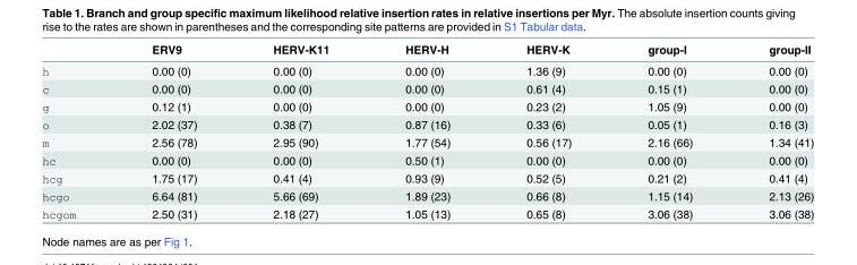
<table><thead><tr><td></td><td>ERV9</td><td>HERV-K11</td><td>HERV-H</td><td>HERV-K</td><td>group-I</td><td>group-II</td></tr></thead><tbody><tr><td>h</td><td>0.00 (0)</td><td>0.00 (0)</td><td>0.00 (0)</td><td>1.36 (9)</td><td>0.00 (0)</td><td>0.00 (0)</td></tr><tr><td>c</td><td>0.00 (0)</td><td>0.00 (0)</td><td>0.00 (0)</td><td>0.61 (4)</td><td>0.15 (1)</td><td>0.00 (0)</td></tr><tr><td>g</td><td>0.12 (1)</td><td>0.00 (0)</td><td>0.00 (0)</td><td>0.23 (2)</td><td>1.05 (9)</td><td>0.00 (0)</td></tr><tr><td>o</td><td>2.02 (37)</td><td>0.38 (7)</td><td>0.87 (16)</td><td>0.33 (6)</td><td>0.05 (1)</td><td>0.16 (3)</td></tr><tr><td>m</td><td>2.56 (78)</td><td>2.95 (90)</td><td>1.77 (54)</td><td>0.56 (17)</td><td>2.16 (66)</td><td>1.34 (41)</td></tr><tr><td>hc</td><td>0.00 (0)</td><td>0.00 (0)</td><td>0.50 (1)</td><td>0.00 (0)</td><td>0.00 (0)</td><td>0.00 (0)</td></tr><tr><td>hcg</td><td>1.75 (17)</td><td>0.41 (4)</td><td>0.93 (9)</td><td>0.52 (5)</td><td>0.21 (2)</td><td>0.41 (4)</td></tr><tr><td>hcgo</td><td>6.64 (81)</td><td>5.66 (69)</td><td>1.89 (23)</td><td>0.66 (8)</td><td>1.15 (14)</td><td>2.13 (26)</td></tr><tr><td>hcgom</td><td>2.50 (31)</td><td>2.18 (27)</td><td>1.05 (13)</td><td>0.65 (8)</td><td>3.06 (38)</td><td>3.06 (38)</td></tr></tbody></table>